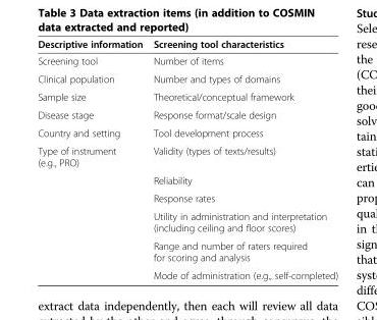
<table><thead><tr><td>Descriptive information</td><td>Screening tool characteristics</td></tr></thead><tbody><tr><td>Screening tool</td><td>Number of items</td></tr><tr><td>Clinical population</td><td>Number and types of domains</td></tr><tr><td>Sample size</td><td>Theoretical/conceptual framework</td></tr><tr><td>Disease stage</td><td>Response format/scale design</td></tr><tr><td>Country and setting</td><td>Tool development process</td></tr><tr><td rowspan="6">Type of instrument (e.g., PRO)</td><td>Validity (types of texts/results)</td></tr><tr><td>Reliability</td></tr><tr><td>Response rates</td></tr><tr><td>Utility in administration and interpretation (including ceiling and floor scores)</td></tr><tr><td>Range and number of raters required for scoring and analysis</td></tr><tr><td>Mode of administration (e.g., self-completed)</td></tr></tbody></table>